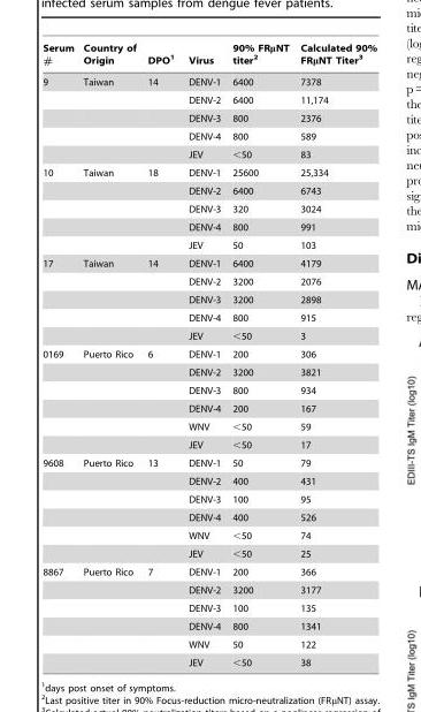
<table><thead><tr><td>Serum #</td><td>Country of Origin</td><td>DPO<sup>1</sup></td><td>Virus</td><td>90% FRμNT titer<sup>2</sup></td><td>Calculated 90% FRμNT Titer<sup>3</sup></td></tr></thead><tbody><tr><td rowspan="5">9</td><td>Taiwan</td><td>14</td><td>DENV-1</td><td>6400</td><td>7378</td></tr><tr><td></td><td></td><td>DENV-2</td><td>6400</td><td>11,174</td></tr><tr><td></td><td></td><td>DENV-3</td><td>800</td><td>2376</td></tr><tr><td></td><td></td><td>DENV-4</td><td>800</td><td>589</td></tr><tr><td></td><td></td><td>JEV</td><td>&lt;50</td><td>83</td></tr><tr><td rowspan="5">10</td><td>Taiwan</td><td>18</td><td>DENV-1</td><td>25600</td><td>25,334</td></tr><tr><td></td><td></td><td>DENV-2</td><td>6400</td><td>6743</td></tr><tr><td></td><td></td><td>DENV-3</td><td>320</td><td>3024</td></tr><tr><td></td><td></td><td>DENV-4</td><td>800</td><td>991</td></tr><tr><td></td><td></td><td>JEV</td><td>50</td><td>103</td></tr><tr><td rowspan="5">17</td><td>Taiwan</td><td>14</td><td>DENV-1</td><td>6400</td><td>4179</td></tr><tr><td></td><td></td><td>DENV-2</td><td>3200</td><td>2076</td></tr><tr><td></td><td></td><td>DENV-3</td><td>3200</td><td>2898</td></tr><tr><td></td><td></td><td>DENV-4</td><td>800</td><td>915</td></tr><tr><td></td><td></td><td>JEV</td><td>&lt;50</td><td>3</td></tr><tr><td rowspan="6">0169</td><td>Puerto Rico</td><td>6</td><td>DENV-1</td><td>200</td><td>306</td></tr><tr><td></td><td></td><td>DENV-2</td><td>3200</td><td>3821</td></tr><tr><td></td><td></td><td>DENV-3</td><td>800</td><td>934</td></tr><tr><td></td><td></td><td>DENV-4</td><td>200</td><td>167</td></tr><tr><td></td><td></td><td>WNV</td><td>&lt;50</td><td>59</td></tr><tr><td></td><td></td><td>JEV</td><td>&lt;50</td><td>17</td></tr><tr><td rowspan="6">9608</td><td>Puerto Rico</td><td>13</td><td>DENV-1</td><td>50</td><td>79</td></tr><tr><td></td><td></td><td>DENV-2</td><td>400</td><td>431</td></tr><tr><td></td><td></td><td>DENV-3</td><td>100</td><td>95</td></tr><tr><td></td><td></td><td>DENV-4</td><td>400</td><td>526</td></tr><tr><td></td><td></td><td>WNV</td><td>&lt;50</td><td>74</td></tr><tr><td></td><td></td><td>JEV</td><td>&lt;50</td><td>25</td></tr><tr><td rowspan="6">8867</td><td>Puerto Rico</td><td>7</td><td>DENV-1</td><td>200</td><td>366</td></tr><tr><td></td><td></td><td>DENV-2</td><td>3200</td><td>3177</td></tr><tr><td></td><td></td><td>DENV-3</td><td>100</td><td>135</td></tr><tr><td></td><td></td><td>DENV-4</td><td>800</td><td>1341</td></tr><tr><td></td><td></td><td>WNV</td><td>50</td><td>122</td></tr><tr><td></td><td></td><td>JEV</td><td>&lt;50</td><td>38</td></tr></tbody></table>